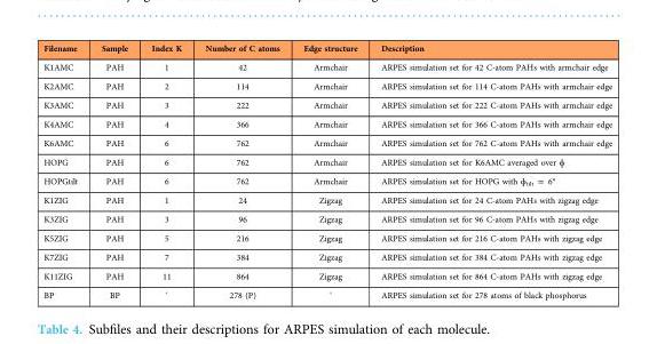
<table><thead><tr><td>Filename</td><td>Sample</td><td>Index K</td><td>Number of C atoms</td><td>Edge structure</td><td>Description</td></tr></thead><tbody><tr><td>K1AMC</td><td>PAH</td><td>1</td><td>42</td><td>Armchair</td><td>ARPES simulation set for 42 C-atom PAHs with armchair edge</td></tr><tr><td>K2AMC</td><td>PAH</td><td>2</td><td>114</td><td>Armchair</td><td>ARPES simulation set for 114 C-atom PAHs with armchair edge</td></tr><tr><td>K3AMC</td><td>PAH</td><td>3</td><td>222</td><td>Armchair</td><td>ARPES simulation set for 222 C-atom PAHs with armchair edge</td></tr><tr><td>K4AMC</td><td>PAH</td><td>4</td><td>366</td><td>Armchair</td><td>ARPES simulation set for 366 C-atom PAHs with armchair edge</td></tr><tr><td>K6AMC</td><td>PAH</td><td>6</td><td>762</td><td>Armchair</td><td>ARPES simulation set for 762 C-atom PAHs with armchair edge</td></tr><tr><td>HOPG</td><td>PAH</td><td>6</td><td>762</td><td>Armchair</td><td>ARPES simulation set for K6AMC averaged over ɸ</td></tr><tr><td>HOPGtilt</td><td>PAH</td><td>6</td><td>762</td><td>Armchair</td><td>ARPES simulation set for HOPG with ɸ<sub>tilt</sub> = 6°</td></tr><tr><td>K1ZIG</td><td>PAH</td><td>1</td><td>24</td><td>Zigzag</td><td>ARPES simulation set for 24 C-atom PAHs with zigzag edge</td></tr><tr><td>K3ZIG</td><td>PAH</td><td>3</td><td>96</td><td>Zigzag</td><td>ARPES simulation set for 96 C-atom PAHs with zigzag edge</td></tr><tr><td>K5ZIG</td><td>PAH</td><td>5</td><td>216</td><td>Zigzag</td><td>ARPES simulation set for 216 C-atom PAHs with zigzag edge</td></tr><tr><td>K7ZIG</td><td>PAH</td><td>7</td><td>384</td><td>Zigzag</td><td>ARPES simulation set for 384 C-atom PAHs with zigzag edge</td></tr><tr><td>K11ZIG</td><td>PAH</td><td>11</td><td>864</td><td>Zigzag</td><td>ARPES simulation set for 864 C-atom PAHs with zigzag edge</td></tr><tr><td>BP</td><td>BP</td><td>‘</td><td>278 (P)</td><td>‘</td><td>ARPES simulation set for 278 atoms of black phosphorus</td></tr></tbody></table>